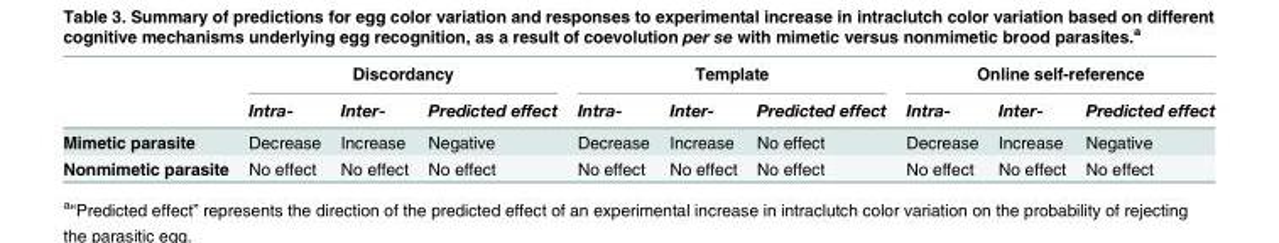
<table><thead><tr><td rowspan="2"></td><td colspan="3">Discordancy</td><td colspan="3">Template</td><td colspan="3">Online self-reference</td></tr><tr><td>Intra-</td><td>Inter-</td><td>Predicted effect</td><td>Intra-</td><td>Inter-</td><td>Predicted effect</td><td>Intra-</td><td>Inter-</td><td>Predicted effect</td></tr></thead><tbody><tr><td>Mimetic parasite</td><td>Decrease</td><td>Increase</td><td>Negative</td><td>Decrease</td><td>Increase</td><td>No effect</td><td>Decrease</td><td>Increase</td><td>Negative</td></tr><tr><td>Nonmimetic parasite</td><td>No effect</td><td>No effect</td><td>No effect</td><td>No effect</td><td>No effect</td><td>No effect</td><td>No effect</td><td>No effect</td><td>No effect</td></tr></tbody></table>